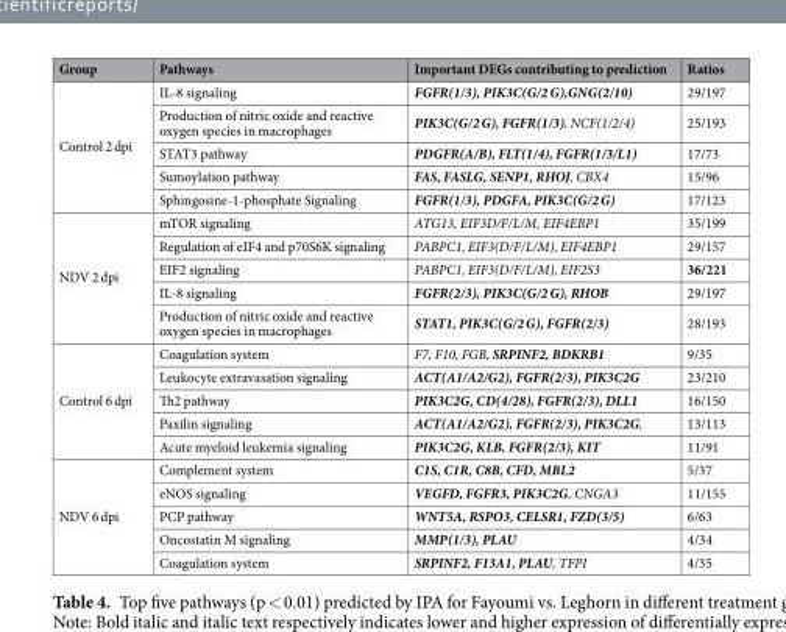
<table><thead><tr><td>Group</td><td>Pathways</td><td>Important DEGs contributing to prediction</td><td>Ratios</td></tr></thead><tbody><tr><td rowspan="5">Control 2 dpi</td><td>IL-8 signaling</td><td>FGFR(1/3), PIK3C(G/2 G),GNG(2/10)</td><td>29/197</td></tr><tr><td>Production of nitric oxide and reactive oxygen species in macrophages</td><td>PIK3C(G/2 G), FGFR(1/3), NCF(1/2/4)</td><td>25/193</td></tr><tr><td>STAT3 pathway</td><td>PDGFR(A/B), FLT(1/4), FGFR(1/3/L1)</td><td>17/73</td></tr><tr><td>Sumoylation pathway</td><td>FAS, FASLG, SENP1, RHOJ, CBX4</td><td>15/96</td></tr><tr><td>Sphingosine-1-phosphate Signaling</td><td>FGFR(1/3), PDGFA, PIK3C(G/2 G)</td><td>17/123</td></tr><tr><td rowspan="5">NDV 2 dpi</td><td>mTOR signaling</td><td>ATG13, EIF3D/F/L/M, EIF4EBP1</td><td>35/199</td></tr><tr><td>Regulation of eIF4 and p70S6K signaling</td><td>PABPC1, EIF3(D/F/L/M), EIF4EBP1</td><td>29/157</td></tr><tr><td>EIF2 signaling</td><td>PABPC1, EIF3(D/F/L/M), EIF2S3</td><td>36/221</td></tr><tr><td>IL-8 signaling</td><td>FGFR(2/3), PIK3C(G/2 G), RHOB</td><td>29/197</td></tr><tr><td>Production of nitric oxide and reactive oxygen species in macrophages</td><td>STAT1, PIK3C(G/2 G), FGFR(2/3)</td><td>28/193</td></tr><tr><td rowspan="5">Control 6 dpi</td><td>Coagulation system</td><td>F7, F10, FGB, SRPINF2, BDKRB1</td><td>9/35</td></tr><tr><td>Leukocyte extravasation signaling</td><td>ACT(A1/A2/G2), FGFR(2/3), PIK3C2G</td><td>23/210</td></tr><tr><td>Th2 pathway</td><td>PIK3C2G, CD(4/28), FGFR(2/3), DLL1</td><td>16/150</td></tr><tr><td>Paxilin signaling</td><td>ACT(A1/A2/G2), FGFR(2/3), PIK3C2G,</td><td>13/113</td></tr><tr><td>Acute myeloid leukemia signaling</td><td>PIK3C2G, KLB, FGFR(2/3), KIT</td><td>11/91</td></tr><tr><td rowspan="5">NDV 6 dpi</td><td>Complement system</td><td>C1S, C1R, C8B, CFD, MBL2</td><td>5/37</td></tr><tr><td>eNOS signaling</td><td>VEGFD, FGFR3, PIK3C2G, CNGA3</td><td>11/155</td></tr><tr><td>PCP pathway</td><td>WNT5A, RSPO3, CELSR1, FZD(3/5)</td><td>6/63</td></tr><tr><td>Oncostatin M signaling</td><td>MMP(1/3), PLAU</td><td>4/34</td></tr><tr><td>Coagulation system</td><td>SRPINF2, F13A1, PLAU, TFPI</td><td>4/35</td></tr></tbody></table>